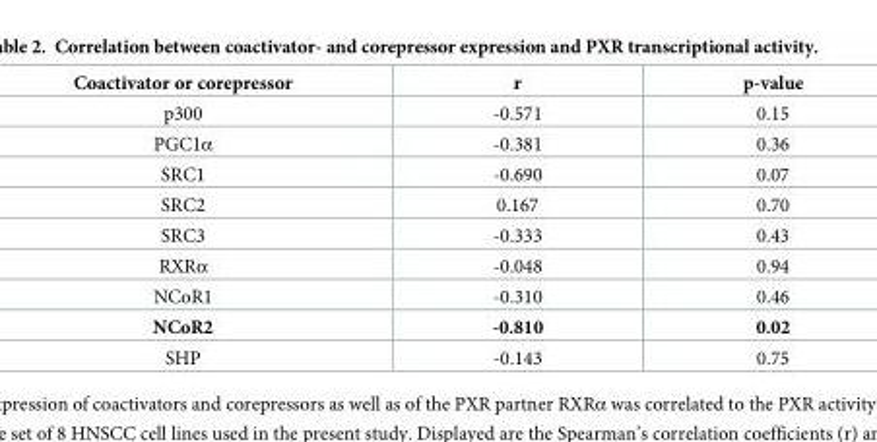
<table><thead><tr><td>Coactivator or corepressor</td><td>r</td><td>p-value</td></tr></thead><tbody><tr><td>p300</td><td>-0.571</td><td>0.15</td></tr><tr><td>PGC1α</td><td>-0.381</td><td>0.36</td></tr><tr><td>SRC1</td><td>-0.690</td><td>0.07</td></tr><tr><td>SRC2</td><td>0.167</td><td>0.70</td></tr><tr><td>SRC3</td><td>-0.333</td><td>0.43</td></tr><tr><td>RXRα</td><td>-0.048</td><td>0.94</td></tr><tr><td>NCoR1</td><td>-0.310</td><td>0.46</td></tr><tr><td>NCoR2</td><td>-0.810</td><td>0.02</td></tr><tr><td>SHP</td><td>-0.143</td><td>0.75</td></tr></tbody></table>